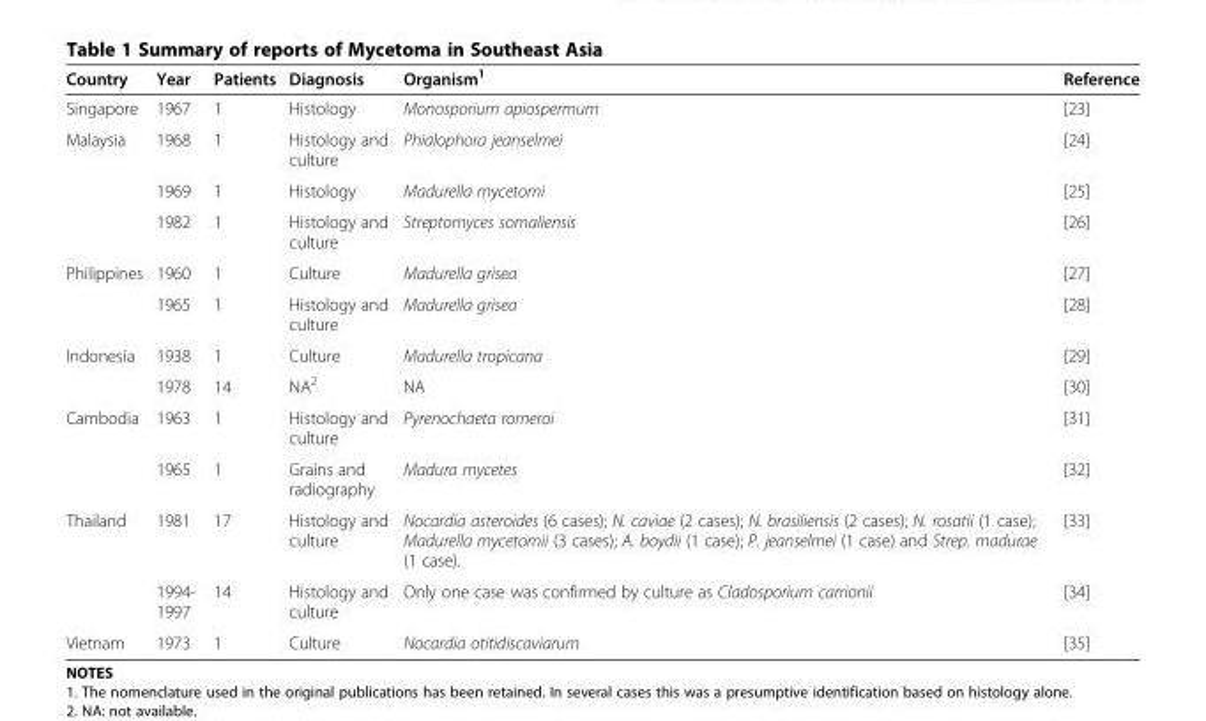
<table><thead><tr><td>Country</td><td>Year</td><td>Patients</td><td>Diagnosis</td><td>Organism<sup>1</sup></td><td>Reference</td></tr></thead><tbody><tr><td>Singapore</td><td>1967</td><td>1</td><td>Histology</td><td>Monosporium apiospermum</td><td>[23]</td></tr><tr><td rowspan="3">Malaysia</td><td>1968</td><td>1</td><td>Histology and culture</td><td>Phialophora jeanselmei</td><td>[24]</td></tr><tr><td>1969</td><td>1</td><td>Histology</td><td>Madurella mycetomi</td><td>[25]</td></tr><tr><td>1982</td><td>1</td><td>Histology and culture</td><td>Streptomyces somaliensis</td><td>[26]</td></tr><tr><td rowspan="2">Philippines</td><td>1960</td><td>1</td><td>Culture</td><td>Madurella grisea</td><td>[27]</td></tr><tr><td>1965</td><td>1</td><td>Histology and culture</td><td>Madurella grisea</td><td>[28]</td></tr><tr><td rowspan="2">Indonesia</td><td>1938</td><td>1</td><td>Culture</td><td>Madurella tropicana</td><td>[29]</td></tr><tr><td>1978</td><td>14</td><td>NA<sup>2</sup></td><td>NA</td><td>[30]</td></tr><tr><td rowspan="2">Cambodia</td><td>1963</td><td>1</td><td>Histology and culture</td><td>Pyrenochaeta romeroi</td><td>[31]</td></tr><tr><td>1965</td><td>1</td><td>Grains and radiography</td><td>Madura mycetes</td><td>[32]</td></tr><tr><td rowspan="2">Thailand</td><td>1981</td><td>17</td><td>Histology and culture</td><td>Nocardia asteroides (6 cases); N. caviae (2 cases); N. brasiliensis (2 cases); N. rosatii (1 case); Madurella mycetomii (3 cases); A. boydii (1 case); P. jeanselmei (1 case) and Strep. madurae (1 case).</td><td>[33]</td></tr><tr><td>1994- 1997</td><td>14</td><td>Histology and culture</td><td>Only one case was confirmed by culture as Cladosporium carrionii</td><td>[34]</td></tr><tr><td>Vietnam</td><td>1973</td><td>1</td><td>Culture</td><td>Nocardia otitidiscaviarum</td><td>[35]</td></tr></tbody></table>